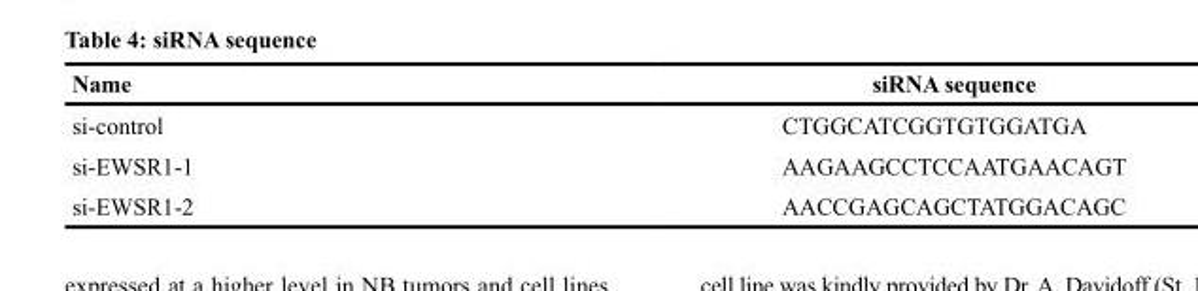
<table><thead><tr><td>Name</td><td>siRNA sequence</td></tr></thead><tbody><tr><td>si-control</td><td>CTGGCATCGGTGTGGATGA</td></tr><tr><td>si-EWSR1-1</td><td>AAGAAGCCTCCAATGAACAGT</td></tr><tr><td>si-EWSR1-2</td><td>AACCGAGCAGCTATGGACAGC</td></tr></tbody></table>